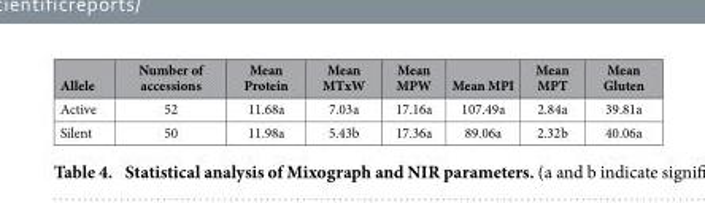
<table><thead><tr><td>Allele</td><td>Number of accessions</td><td>Mean Protein</td><td>Mean MTxW</td><td>Mean MPW</td><td>Mean MPI</td><td>Mean MPT</td><td>Mean Gluten</td></tr></thead><tbody><tr><td>Active</td><td>52</td><td>11.68a</td><td>7.03a</td><td>17.16a</td><td>107.49a</td><td>2.84a</td><td>39.81a</td></tr><tr><td>Silent</td><td>50</td><td>11.98a</td><td>5.43b</td><td>17.36a</td><td>89.06a</td><td>2.32b</td><td>40.06a</td></tr></tbody></table>